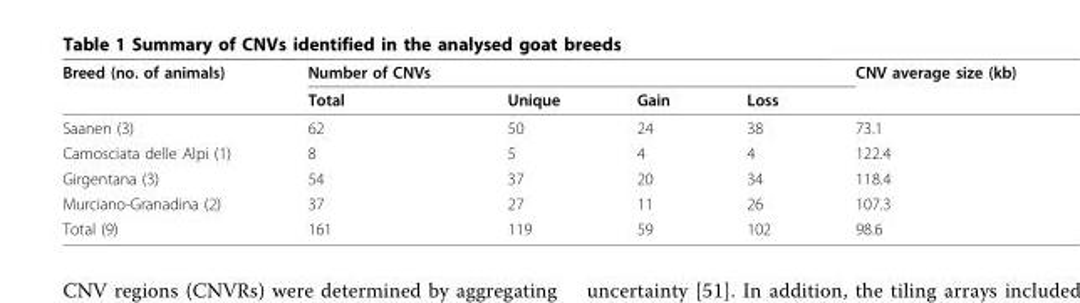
<table><thead><tr><td rowspan="2">Breed (no. of animals)</td><td rowspan="2">Number of CNVs Total</td><td rowspan="2">Unique</td><td rowspan="2">Gain</td><td rowspan="2">Loss</td><td rowspan="2">CNV average size (kb)</td></tr><tr></tr></thead><tbody><tr><td>Saanen (3)</td><td>62</td><td>50</td><td>24</td><td>38</td><td>73.1</td></tr><tr><td>Camosciata delle Alpi (1)</td><td>8</td><td>5</td><td>4</td><td>4</td><td>122.4</td></tr><tr><td>Girgentana (3)</td><td>54</td><td>37</td><td>20</td><td>34</td><td>118.4</td></tr><tr><td>Murciano-Granadina (2)</td><td>37</td><td>27</td><td>11</td><td>26</td><td>107.3</td></tr><tr><td>Total (9)</td><td>161</td><td>119</td><td>59</td><td>102</td><td>98.6</td></tr></tbody></table>